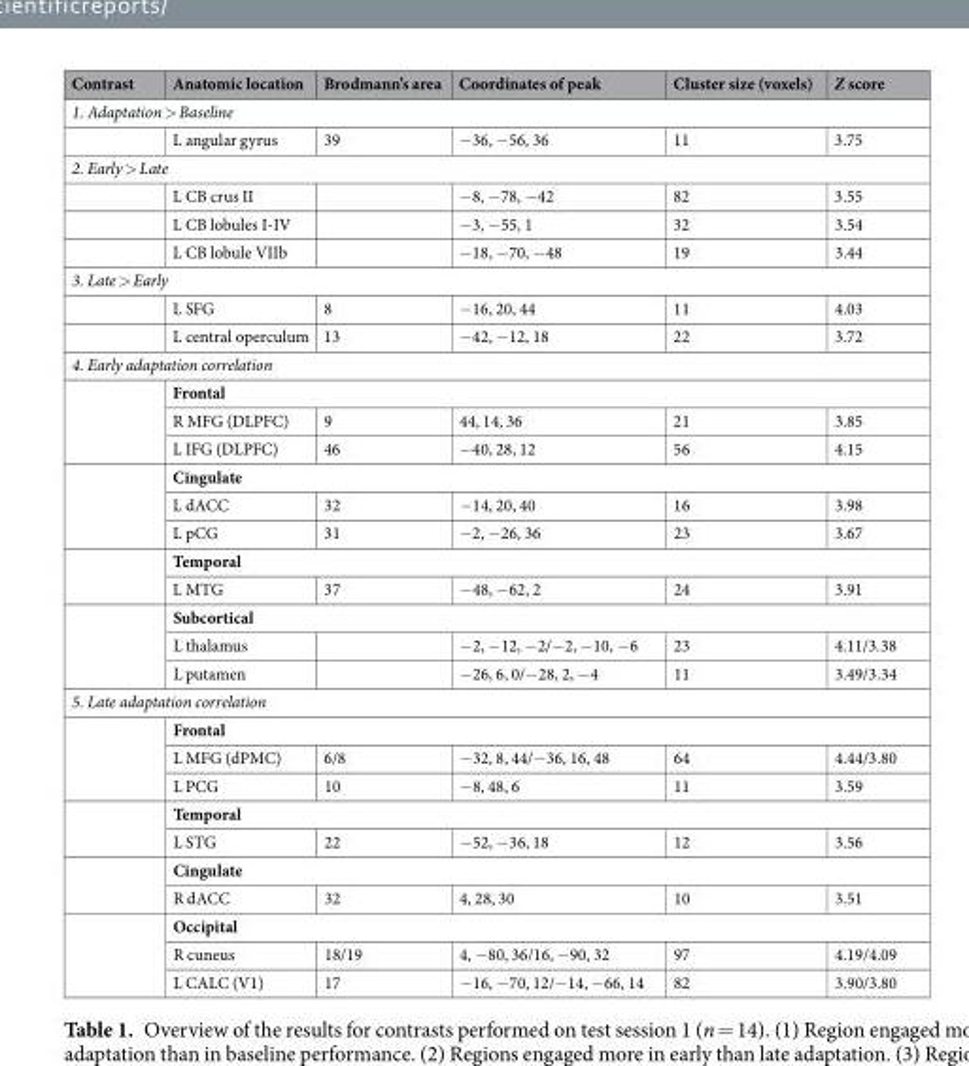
<table><thead><tr><td>Contrast</td><td>Anatomic location</td><td>Brodmann’s area</td><td>Coordinates of peak</td><td>Cluster size (voxels)</td><td>Z score</td></tr></thead><tbody><tr><td colspan="6">1. Adaptation &gt; Baseline</td></tr><tr><td></td><td>L angular gyrus</td><td>39</td><td>−36, −56, 36</td><td>11</td><td>3.75</td></tr><tr><td colspan="6">2. Early &gt; Late</td></tr><tr><td></td><td>L CB crus II</td><td></td><td>−8, −78, −42</td><td>82</td><td>3.55</td></tr><tr><td></td><td>L CB lobules I-IV</td><td></td><td>−3, −55, 1</td><td>32</td><td>3.54</td></tr><tr><td></td><td>L CB lobule VIIb</td><td></td><td>−18, −70, −48</td><td>19</td><td>3.44</td></tr><tr><td colspan="6">3. Late &gt; Early</td></tr><tr><td></td><td>L SFG</td><td>8</td><td>−16, 20, 44</td><td>11</td><td>4.03</td></tr><tr><td></td><td>L central operculum</td><td>13</td><td>−42, −12, 18</td><td>22</td><td>3.72</td></tr><tr><td colspan="6">4. Early adaptation correlation</td></tr><tr><td rowspan="3"></td><td colspan="5">Frontal</td></tr><tr><td>R MFG (DLPFC)</td><td>9</td><td>44, 14, 36</td><td>21</td><td>3.85</td></tr><tr><td>L IFG (DLPFC)</td><td>46</td><td>−40, 28, 12</td><td>56</td><td>4.15</td></tr><tr><td rowspan="3"></td><td colspan="5">Cingulate</td></tr><tr><td>L dACC</td><td>32</td><td>−14, 20, 40</td><td>16</td><td>3.98</td></tr><tr><td>L pCG</td><td>31</td><td>−2, −26, 36</td><td>23</td><td>3.67</td></tr><tr><td rowspan="2"></td><td colspan="5">Temporal</td></tr><tr><td>L MTG</td><td>37</td><td>−48, −62, 2</td><td>24</td><td>3.91</td></tr><tr><td rowspan="3"></td><td colspan="5">Subcortical</td></tr><tr><td>L thalamus</td><td></td><td>−2, −12, −2/−2, −10, −6</td><td>23</td><td>4.11/3.38</td></tr><tr><td>L putamen</td><td></td><td>−26, 6, 0/−28, 2, −4</td><td>11</td><td>3.49/3.34</td></tr><tr><td colspan="6">5. Late adaptation correlation</td></tr><tr><td rowspan="3"></td><td colspan="5">Frontal</td></tr><tr><td>L MFG (dPMC)</td><td>6/8</td><td>−32, 8, 44/−36, 16, 48</td><td>64</td><td>4.44/3.80</td></tr><tr><td>L PCG</td><td>10</td><td>−8, 48, 6</td><td>11</td><td>3.59</td></tr><tr><td rowspan="2"></td><td colspan="5">Temporal</td></tr><tr><td>L STG</td><td>22</td><td>−52, −36, 18</td><td>12</td><td>3.56</td></tr><tr><td rowspan="2"></td><td colspan="5">Cingulate</td></tr><tr><td>R dACC</td><td>32</td><td>4, 28, 30</td><td>10</td><td>3.51</td></tr><tr><td rowspan="3"></td><td colspan="5">Occipital</td></tr><tr><td>R cuneus</td><td>18/19</td><td>4, −80, 36/16, −90, 32</td><td>97</td><td>4.19/4.09</td></tr><tr><td>L CALC (V1)</td><td>17</td><td>−16, −70, 12/−14, −66, 14</td><td>82</td><td>3.90/3.80</td></tr></tbody></table>